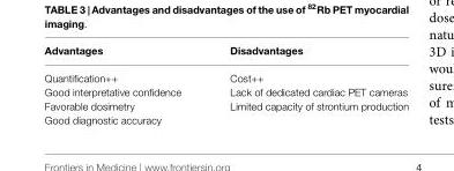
<table><thead><tr><td>Advantages</td><td>Disadvantages</td></tr></thead><tbody><tr><td>Quantification++</td><td>Cost++</td></tr><tr><td>Good interpretative confidence</td><td>Lack of dedicated cardiac PET cameras</td></tr><tr><td>Favorable dosimetry</td><td>Limited capacity of strontium production</td></tr><tr><td>Good diagnostic accuracy</td><td></td></tr></tbody></table>